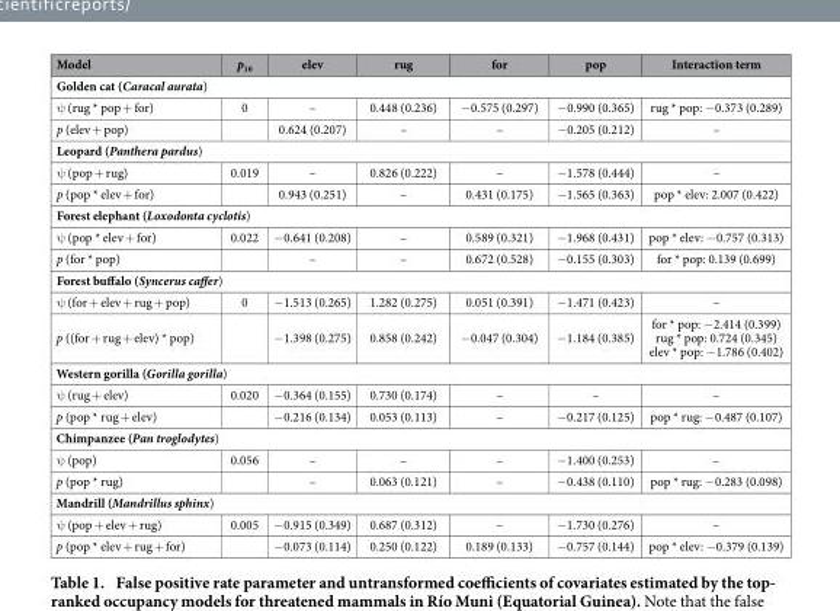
<table><thead><tr><td>Model</td><td>p<sub>10</sub></td><td>elev</td><td>rug</td><td>for</td><td>pop</td><td>Interaction term</td></tr></thead><tbody><tr><td colspan="7">Golden cat (Caracal aurata)</td></tr><tr><td>ψ (rug * pop + for)</td><td>0</td><td>–</td><td>0.448 (0.236)</td><td>− 0.575 (0.297)</td><td>− 0.990 (0.365)</td><td>rug * pop: − 0.373 (0.289)</td></tr><tr><td>p (elev + pop)</td><td></td><td>0.624 (0.207)</td><td>–</td><td>–</td><td>− 0.205 (0.212)</td><td>–</td></tr><tr><td colspan="7">Leopard (Panthera pardus)</td></tr><tr><td>ψ (pop + rug)</td><td>0.019</td><td>–</td><td>0.826 (0.222)</td><td>–</td><td>− 1.578 (0.444)</td><td>–</td></tr><tr><td>p (pop * elev + for)</td><td></td><td>0.943 (0.251)</td><td>–</td><td>0.431 (0.175)</td><td>− 1.565 (0.363)</td><td>pop * elev: 2.007 (0.422)</td></tr><tr><td colspan="7">Forest elephant (Loxodonta cyclotis)</td></tr><tr><td>ψ (pop * elev + for)</td><td>0.022</td><td>− 0.641 (0.208)</td><td>–</td><td>0.589 (0.321)</td><td>− 1.968 (0.431)</td><td>pop * elev: − 0.757 (0.313)</td></tr><tr><td>p (for * pop)</td><td></td><td>–</td><td>–</td><td>0.672 (0.528)</td><td>− 0.155 (0.303)</td><td>for * pop: 0.139 (0.699)</td></tr><tr><td colspan="7">Forest buffalo (Syncerus caffer)</td></tr><tr><td>ψ (for + elev + rug + pop)</td><td>0</td><td>− 1.513 (0.265)</td><td>1.282 (0.275)</td><td>0.051 (0.391)</td><td>− 1.471 (0.423)</td><td>–</td></tr><tr><td>p ((for + rug + elev) * pop)</td><td></td><td>− 1.398 (0.275)</td><td>0.858 (0.242)</td><td>− 0.047 (0.304)</td><td>− 1.184 (0.385)</td><td>for * pop: − 2.414 (0.399) rug * pop: 0.724 (0.345) elev * pop: − 1.786 (0.402)</td></tr><tr><td colspan="7">Western gorilla (Gorilla gorilla)</td></tr><tr><td>ψ (rug + elev)</td><td>0.020</td><td>− 0.364 (0.155)</td><td>0.730 (0.174)</td><td>–</td><td>–</td><td>–</td></tr><tr><td>p (pop * rug + elev)</td><td></td><td>− 0.216 (0.134)</td><td>0.053 (0.113)</td><td>–</td><td>− 0.217 (0.125)</td><td>pop * rug: − 0.487 (0.107)</td></tr><tr><td colspan="7">Chimpanzee (Pan troglodytes)</td></tr><tr><td>ψ (pop)</td><td>0.056</td><td>–</td><td>–</td><td>–</td><td>− 1.400 (0.253)</td><td>–</td></tr><tr><td>p (pop * rug)</td><td></td><td>–</td><td>0.063 (0.121)</td><td>–</td><td>− 0.438 (0.110)</td><td>pop * rug: − 0.283 (0.098)</td></tr><tr><td colspan="7">Mandrill (Mandrillus sphinx)</td></tr><tr><td>ψ (pop + elev + rug)</td><td>0.005</td><td>− 0.915 (0.349)</td><td>0.687 (0.312)</td><td>–</td><td>− 1.730 (0.276)</td><td>–</td></tr><tr><td>p (pop * elev + rug + for)</td><td></td><td>− 0.073 (0.114)</td><td>0.250 (0.122)</td><td>0.189 (0.133)</td><td>− 0.757 (0.144)</td><td>pop * elev: − 0.379 (0.139)</td></tr></tbody></table>